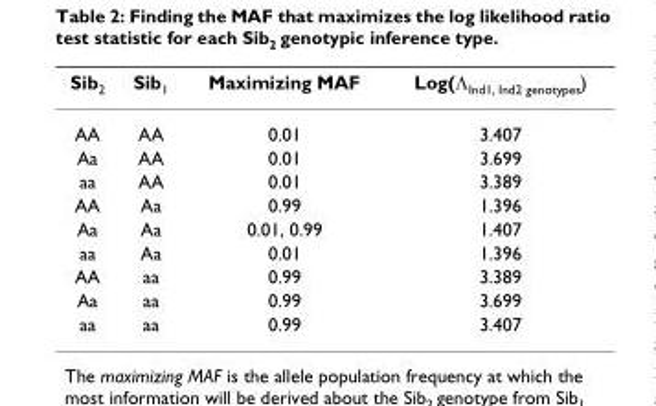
<table><thead><tr><td>Sib<sub>2</sub></td><td>Sib<sub>1</sub></td><td>Maximizing MAF</td><td>Log(Λ<sub>Ind1, Ind2 genotypes</sub>)</td></tr></thead><tbody><tr><td>AA</td><td>AA</td><td>0.01</td><td>3.407</td></tr><tr><td>Aa</td><td>AA</td><td>0.01</td><td>3.699</td></tr><tr><td>aa</td><td>AA</td><td>0.01</td><td>3.389</td></tr><tr><td>AA</td><td>Aa</td><td>0.99</td><td>1.396</td></tr><tr><td>Aa</td><td>Aa</td><td>0.01, 0.99</td><td>1.407</td></tr><tr><td>aa</td><td>Aa</td><td>0.01</td><td>1.396</td></tr><tr><td>AA</td><td>aa</td><td>0.99</td><td>3.389</td></tr><tr><td>Aa</td><td>aa</td><td>0.99</td><td>3.699</td></tr><tr><td>aa</td><td>aa</td><td>0.99</td><td>3.407</td></tr></tbody></table>